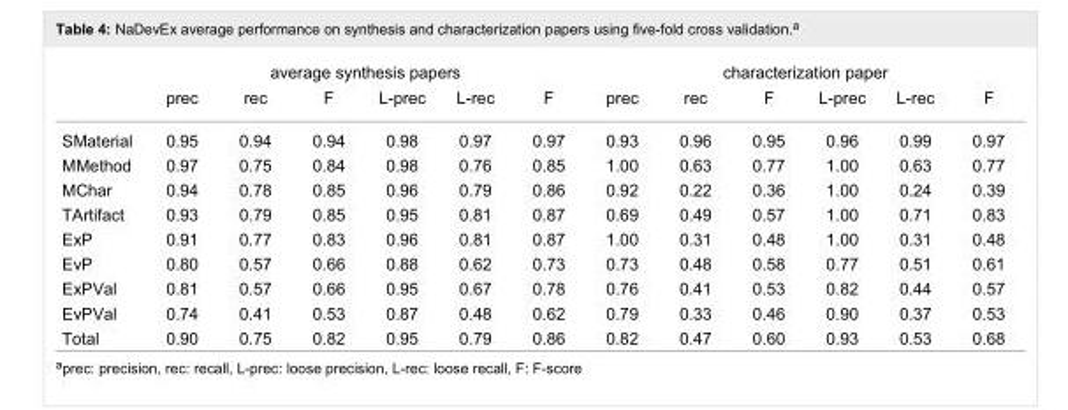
<table><thead><tr><td rowspan="2"></td><td colspan="6">average synthesis papers</td><td colspan="6">characterization paper</td></tr><tr><td>prec</td><td>rec</td><td>F</td><td>L-prec</td><td>L-rec</td><td>F</td><td>prec</td><td>rec</td><td>F</td><td>L-prec</td><td>L-rec</td><td>F</td></tr></thead><tbody><tr><td>SMaterial</td><td>0.95</td><td>0.94</td><td>0.94</td><td>0.98</td><td>0.97</td><td>0.97</td><td>0.93</td><td>0.96</td><td>0.95</td><td>0.96</td><td>0.99</td><td>0.97</td></tr><tr><td>MMethod</td><td>0.97</td><td>0.75</td><td>0.84</td><td>0.98</td><td>0.76</td><td>0.85</td><td>1.00</td><td>0.63</td><td>0.77</td><td>1.00</td><td>0.63</td><td>0.77</td></tr><tr><td>MChar</td><td>0.94</td><td>0.78</td><td>0.85</td><td>0.96</td><td>0.79</td><td>0.86</td><td>0.92</td><td>0.22</td><td>0.36</td><td>1.00</td><td>0.24</td><td>0.39</td></tr><tr><td>TArtifact</td><td>0.93</td><td>0.79</td><td>0.85</td><td>0.95</td><td>0.81</td><td>0.87</td><td>0.69</td><td>0.49</td><td>0.57</td><td>1.00</td><td>0.71</td><td>0.83</td></tr><tr><td>ExP</td><td>0.91</td><td>0.77</td><td>0.83</td><td>0.96</td><td>0.81</td><td>0.87</td><td>1.00</td><td>0.31</td><td>0.48</td><td>1.00</td><td>0.31</td><td>0.48</td></tr><tr><td>EvP</td><td>0.80</td><td>0.57</td><td>0.66</td><td>0.88</td><td>0.62</td><td>0.73</td><td>0.73</td><td>0.48</td><td>0.58</td><td>0.77</td><td>0.51</td><td>0.61</td></tr><tr><td>ExPVal</td><td>0.81</td><td>0.57</td><td>0.66</td><td>0.95</td><td>0.67</td><td>0.78</td><td>0.76</td><td>0.41</td><td>0.53</td><td>0.82</td><td>0.44</td><td>0.57</td></tr><tr><td>EvPVal</td><td>0.74</td><td>0.41</td><td>0.53</td><td>0.87</td><td>0.48</td><td>0.62</td><td>0.79</td><td>0.33</td><td>0.46</td><td>0.90</td><td>0.37</td><td>0.53</td></tr><tr><td>Total</td><td>0.90</td><td>0.75</td><td>0.82</td><td>0.95</td><td>0.79</td><td>0.86</td><td>0.82</td><td>0.47</td><td>0.60</td><td>0.93</td><td>0.53</td><td>0.68</td></tr></tbody></table>